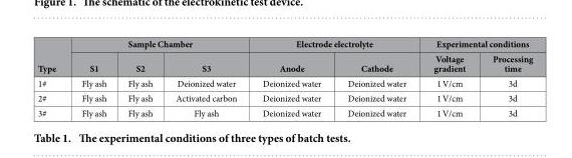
<table><thead><tr><td rowspan="2">Type</td><td colspan="3">Sample Chamber</td><td colspan="2">Electrode electrolyte</td><td colspan="2">Experimental conditions</td></tr><tr><td>S1</td><td>S2</td><td>S3</td><td>Anode</td><td>Cathode</td><td>Voltage gradient</td><td>Processing time</td></tr></thead><tbody><tr><td>1#</td><td>Fly ash</td><td>Fly ash</td><td>Deionized water</td><td>Deionized water</td><td>Deionized water</td><td>1 V/cm</td><td>3d</td></tr><tr><td>2#</td><td>Fly ash</td><td>Fly ash</td><td>Activated carbon</td><td>Deionized water</td><td>Deionized water</td><td>1 V/cm</td><td>3d</td></tr><tr><td>3#</td><td>Fly ash</td><td>Fly ash</td><td>Fly ash</td><td>Deionized water</td><td>Deionized water</td><td>1 V/cm</td><td>3d</td></tr></tbody></table>